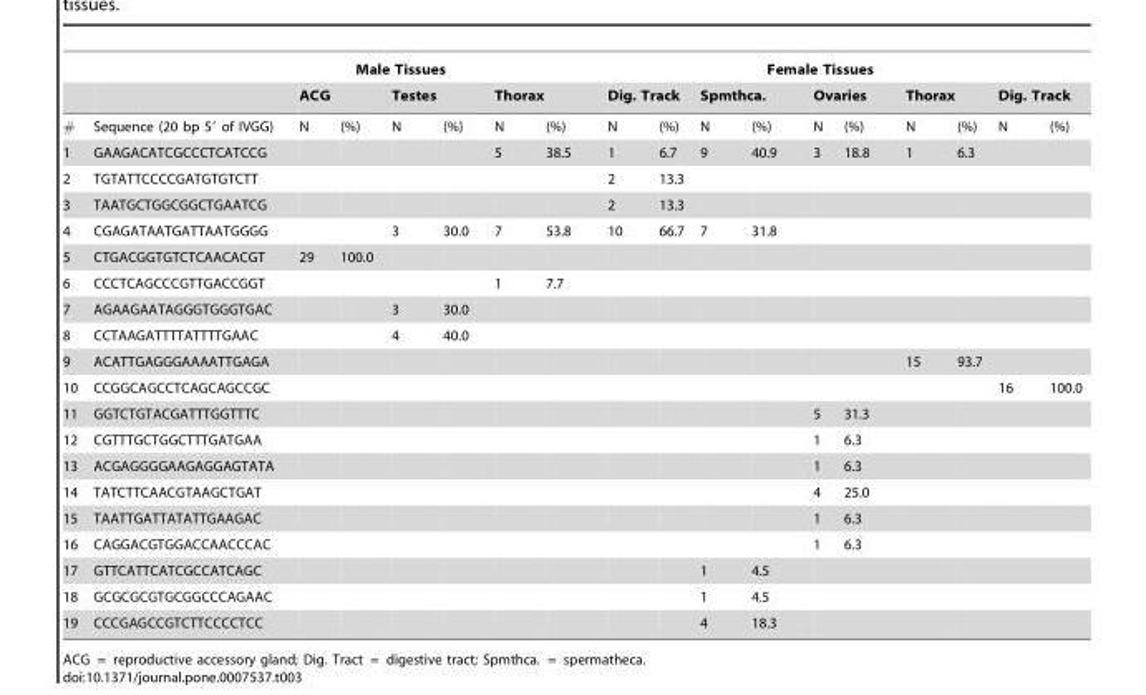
<table><thead><tr><td rowspan="3">#</td><td rowspan="3">Sequence (20 bp 5′ of IVGG)</td><td colspan="8">Male Tissues</td><td colspan="8">Female Tissues</td></tr><tr><td colspan="2">ACG</td><td colspan="2">Testes</td><td colspan="2">Thorax</td><td colspan="2">Dig. Track</td><td colspan="2">Spmthca.</td><td colspan="2">Ovaries</td><td colspan="2">Thorax</td><td colspan="2">Dig. Track</td></tr><tr><td>N</td><td>(%)</td><td>N</td><td>(%)</td><td>N</td><td>(%)</td><td>N</td><td>(%)</td><td>N</td><td>(%)</td><td>N</td><td>(%)</td><td>N</td><td>(%)</td><td>N</td><td>(%)</td></tr></thead><tbody><tr><td>1</td><td>GAAGACATCGCCCTCATCCG</td><td></td><td></td><td></td><td></td><td>5</td><td>38.5</td><td>1</td><td>6.7</td><td>9</td><td>40.9</td><td>3</td><td>18.8</td><td>1</td><td>6.3</td><td></td><td></td></tr><tr><td>2</td><td>TGTATTCCCCGATGTGTCTT</td><td></td><td></td><td></td><td></td><td></td><td></td><td>2</td><td>13.3</td><td></td><td></td><td></td><td></td><td></td><td></td><td></td><td></td></tr><tr><td>3</td><td>TAATGCTGGCGGCTGAATCG</td><td></td><td></td><td></td><td></td><td></td><td></td><td>2</td><td>13.3</td><td></td><td></td><td></td><td></td><td></td><td></td><td></td><td></td></tr><tr><td>4</td><td>CGAGATAATGATTAATGGGG</td><td></td><td></td><td>3</td><td>30.0</td><td>7</td><td>53.8</td><td>10</td><td>66.7</td><td>7</td><td>31.8</td><td></td><td></td><td></td><td></td><td></td><td></td></tr><tr><td>5</td><td>CTGACGGTGTCTCAACACGT</td><td>29</td><td>100.0</td><td></td><td></td><td></td><td></td><td></td><td></td><td></td><td></td><td></td><td></td><td></td><td></td><td></td><td></td></tr><tr><td>6</td><td>CCCTCAGCCCGTTGACCGGT</td><td></td><td></td><td></td><td></td><td>1</td><td>7.7</td><td></td><td></td><td></td><td></td><td></td><td></td><td></td><td></td><td></td><td></td></tr><tr><td>7</td><td>AGAAGAATAGGGTGGGTGAC</td><td></td><td></td><td>3</td><td>30.0</td><td></td><td></td><td></td><td></td><td></td><td></td><td></td><td></td><td></td><td></td><td></td><td></td></tr><tr><td>8</td><td>CCTAAGATTTTATTTTGAAC</td><td></td><td></td><td>4</td><td>40.0</td><td></td><td></td><td></td><td></td><td></td><td></td><td></td><td></td><td></td><td></td><td></td><td></td></tr><tr><td>9</td><td>ACATTGAGGGAAAATTGAGA</td><td></td><td></td><td></td><td></td><td></td><td></td><td></td><td></td><td></td><td></td><td></td><td></td><td>15</td><td>93.7</td><td></td><td></td></tr><tr><td>10</td><td>CCGGCAGCCTCAGCAGCCGC</td><td></td><td></td><td></td><td></td><td></td><td></td><td></td><td></td><td></td><td></td><td></td><td></td><td></td><td></td><td>16</td><td>100.0</td></tr><tr><td>11</td><td>GGTCTGTACGATTTGGTTTC</td><td></td><td></td><td></td><td></td><td></td><td></td><td></td><td></td><td></td><td></td><td>5</td><td>31.3</td><td></td><td></td><td></td><td></td></tr><tr><td>12</td><td>CGTTTGCTGGCTTTGATGAA</td><td></td><td></td><td></td><td></td><td></td><td></td><td></td><td></td><td></td><td></td><td>1</td><td>6.3</td><td></td><td></td><td></td><td></td></tr><tr><td>13</td><td>ACGAGGGGAAGAGGAGTATA</td><td></td><td></td><td></td><td></td><td></td><td></td><td></td><td></td><td></td><td></td><td>1</td><td>6.3</td><td></td><td></td><td></td><td></td></tr><tr><td>14</td><td>TATCTTCAACGTAAGCTGAT</td><td></td><td></td><td></td><td></td><td></td><td></td><td></td><td></td><td></td><td></td><td>4</td><td>25.0</td><td></td><td></td><td></td><td></td></tr><tr><td>15</td><td>TAATTGATTATATTGAAGAC</td><td></td><td></td><td></td><td></td><td></td><td></td><td></td><td></td><td></td><td></td><td>1</td><td>6.3</td><td></td><td></td><td></td><td></td></tr><tr><td>16</td><td>CAGGACGTGGACCAACCCAC</td><td></td><td></td><td></td><td></td><td></td><td></td><td></td><td></td><td></td><td></td><td>1</td><td>6.3</td><td></td><td></td><td></td><td></td></tr><tr><td>17</td><td>GTTCATTCATCGCCATCAGC</td><td></td><td></td><td></td><td></td><td></td><td></td><td></td><td></td><td>1</td><td>4.5</td><td></td><td></td><td></td><td></td><td></td><td></td></tr><tr><td>18</td><td>GCGCGCGTGCGGCCCAGAAC</td><td></td><td></td><td></td><td></td><td></td><td></td><td></td><td></td><td>1</td><td>4.5</td><td></td><td></td><td></td><td></td><td></td><td></td></tr><tr><td>19</td><td>CCCGAGCCGTCTTCCCCTCC</td><td></td><td></td><td></td><td></td><td></td><td></td><td></td><td></td><td>4</td><td>18.3</td><td></td><td></td><td></td><td></td><td></td><td></td></tr></tbody></table>